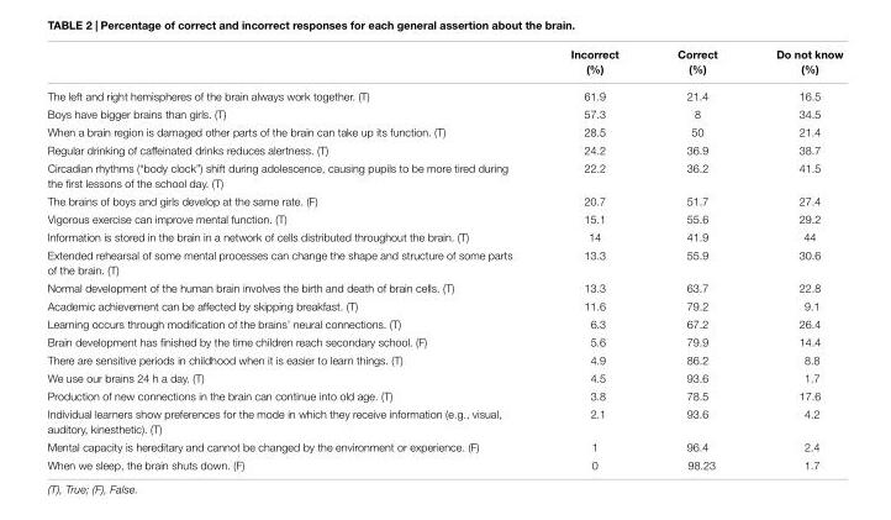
<table><thead><tr><td></td><td>Incorrect (%)</td><td>Correct (%)</td><td>Do not know (%)</td></tr></thead><tbody><tr><td>The left and right hemispheres of the brain always work together. (T)</td><td>61.9</td><td>21.4</td><td>16.5</td></tr><tr><td>Boys have bigger brains than girls. (T)</td><td>57.3</td><td>8</td><td>34.5</td></tr><tr><td>When a brain region is damaged other parts of the brain can take up its function. (T)</td><td>28.5</td><td>50</td><td>21.4</td></tr><tr><td>Regular drinking of caffeinated drinks reduces alertness. (T)</td><td>24.2</td><td>36.9</td><td>38.7</td></tr><tr><td>Circadian rhythms (“body clock”) shift during adolescence, causing pupils to be more tired during the first lessons of the school day. (T)</td><td>22.2</td><td>36.2</td><td>41.5</td></tr><tr><td>The brains of boys and girls develop at the same rate. (F)</td><td>20.7</td><td>51.7</td><td>27.4</td></tr><tr><td>Vigorous exercise can improve mental function. (T)</td><td>15.1</td><td>55.6</td><td>29.2</td></tr><tr><td>Information is stored in the brain in a network of cells distributed throughout the brain. (T)</td><td>14</td><td>41.9</td><td>44</td></tr><tr><td>Extended rehearsal of some mental processes can change the shape and structure of some parts of the brain. (T)</td><td>13.3</td><td>55.9</td><td>30.6</td></tr><tr><td>Normal development of the human brain involves the birth and death of brain cells. (T)</td><td>13.3</td><td>63.7</td><td>22.8</td></tr><tr><td>Academic achievement can be affected by skipping breakfast. (T)</td><td>11.6</td><td>79.2</td><td>9.1</td></tr><tr><td>Learning occurs through modification of the brains’ neural connections. (T)</td><td>6.3</td><td>67.2</td><td>26.4</td></tr><tr><td>Brain development has finished by the time children reach secondary school. (F)</td><td>5.6</td><td>79.9</td><td>14.4</td></tr><tr><td>There are sensitive periods in childhood when it is easier to learn things. (T)</td><td>4.9</td><td>86.2</td><td>8.8</td></tr><tr><td>We use our brains 24 h a day. (T)</td><td>4.5</td><td>93.6</td><td>1.7</td></tr><tr><td>Production of new connections in the brain can continue into old age. (T)</td><td>3.8</td><td>78.5</td><td>17.6</td></tr><tr><td>Individual learners show preferences for the mode in which they receive information (e.g., visual, auditory, kinesthetic). (T)</td><td>2.1</td><td>93.6</td><td>4.2</td></tr><tr><td>Mental capacity is hereditary and cannot be changed by the environment or experience. (F)</td><td>1</td><td>96.4</td><td>2.4</td></tr><tr><td>When we sleep, the brain shuts down. (F)</td><td>0</td><td>98.23</td><td>1.7</td></tr></tbody></table>